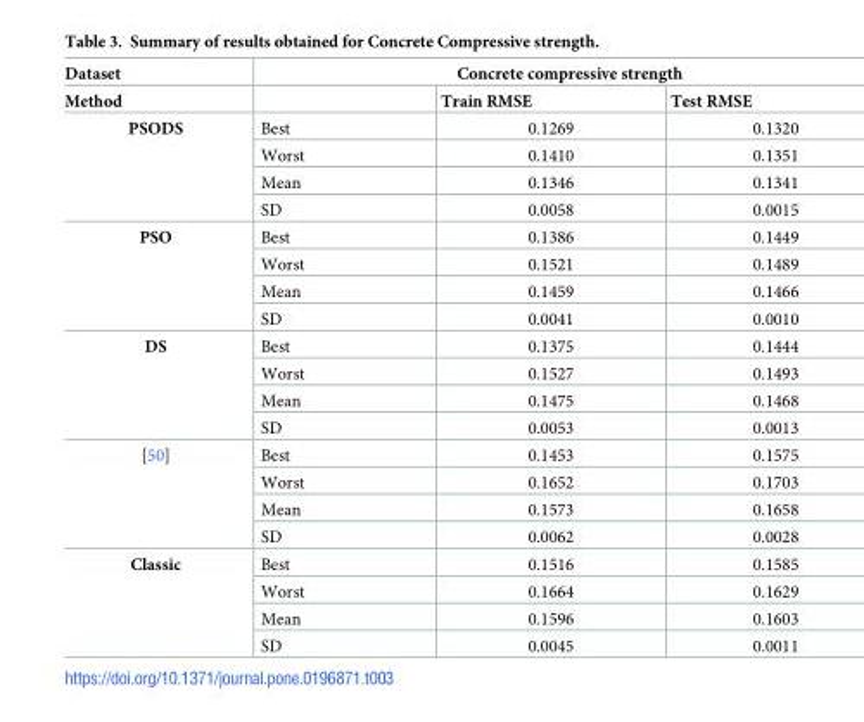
<table><thead><tr><td rowspan="2">Dataset Method</td><td colspan="3">Concrete compressive strength</td></tr><tr><td></td><td>Train RMSE</td><td>Test RMSE</td></tr></thead><tbody><tr><td rowspan="4">PSODS</td><td>Best</td><td>0.1269</td><td>0.1320</td></tr><tr><td>Worst</td><td>0.1410</td><td>0.1351</td></tr><tr><td>Mean</td><td>0.1346</td><td>0.1341</td></tr><tr><td>SD</td><td>0.0058</td><td>0.0015</td></tr><tr><td rowspan="4">PSO</td><td>Best</td><td>0.1386</td><td>0.1449</td></tr><tr><td>Worst</td><td>0.1521</td><td>0.1489</td></tr><tr><td>Mean</td><td>0.1459</td><td>0.1466</td></tr><tr><td>SD</td><td>0.0041</td><td>0.0010</td></tr><tr><td rowspan="4">DS</td><td>Best</td><td>0.1375</td><td>0.1444</td></tr><tr><td>Worst</td><td>0.1527</td><td>0.1493</td></tr><tr><td>Mean</td><td>0.1475</td><td>0.1468</td></tr><tr><td>SD</td><td>0.0053</td><td>0.0013</td></tr><tr><td rowspan="4">[50]</td><td>Best</td><td>0.1453</td><td>0.1575</td></tr><tr><td>Worst</td><td>0.1652</td><td>0.1703</td></tr><tr><td>Mean</td><td>0.1573</td><td>0.1658</td></tr><tr><td>SD</td><td>0.0062</td><td>0.0028</td></tr><tr><td rowspan="4">Classic</td><td>Best</td><td>0.1516</td><td>0.1585</td></tr><tr><td>Worst</td><td>0.1664</td><td>0.1629</td></tr><tr><td>Mean</td><td>0.1596</td><td>0.1603</td></tr><tr><td>SD</td><td>0.0045</td><td>0.0011</td></tr></tbody></table>